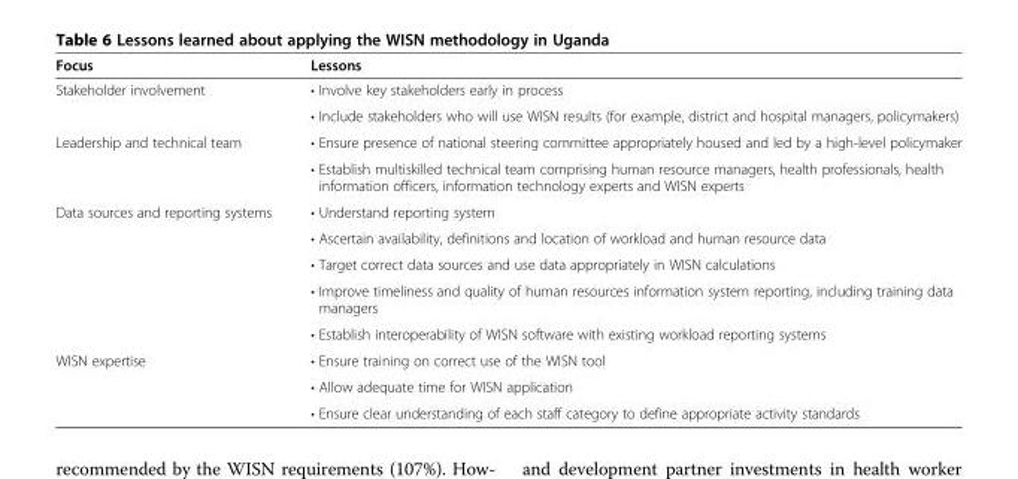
<table><thead><tr><td>Focus</td><td>Lessons</td></tr></thead><tbody><tr><td rowspan="2">Stakeholder involvement</td><td>• Involve key stakeholders early in process</td></tr><tr><td>• Include stakeholders who will use WISN results (for example, district and hospital managers, policymakers)</td></tr><tr><td rowspan="2">Leadership and technical team</td><td>• Ensure presence of national steering committee appropriately housed and led by a high-level policymaker</td></tr><tr><td>• Establish multiskilled technical team comprising human resource managers, health professionals, health information officers, information technology experts and WISN experts</td></tr><tr><td rowspan="5">Data sources and reporting systems</td><td>• Understand reporting system</td></tr><tr><td>• Ascertain availability, definitions and location of workload and human resource data</td></tr><tr><td>• Target correct data sources and use data appropriately in WISN calculations</td></tr><tr><td>• Improve timeliness and quality of human resources information system reporting, including training data managers</td></tr><tr><td>• Establish interoperability of WISN software with existing workload reporting systems</td></tr><tr><td rowspan="3">WISN expertise</td><td>• Ensure training on correct use of the WISN tool</td></tr><tr><td>• Allow adequate time for WISN application</td></tr><tr><td>• Ensure clear understanding of each staff category to define appropriate activity standards</td></tr></tbody></table>